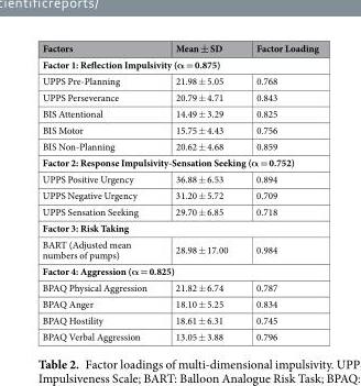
<table><thead><tr><td>Factors</td><td>Mean ± SD</td><td>Factor Loading</td></tr></thead><tbody><tr><td colspan="3">Factor 1: Reflection Impulsivity (α = 0.875)</td></tr><tr><td>UPPS Pre-Planning</td><td>21.98 ± 5.05</td><td>0.768</td></tr><tr><td>UPPS Perseverance</td><td>20.79 ± 4.71</td><td>0.843</td></tr><tr><td>BIS Attentional</td><td>14.49 ± 3.29</td><td>0.825</td></tr><tr><td>BIS Motor</td><td>15.75 ± 4.43</td><td>0.756</td></tr><tr><td>BIS Non-Planning</td><td>20.62 ± 4.68</td><td>0.859</td></tr><tr><td colspan="3">Factor 2: Response Impulsivity-Sensation Seeking (α = 0.752)</td></tr><tr><td>UPPS Positive Urgency</td><td>36.88 ± 6.53</td><td>0.894</td></tr><tr><td>UPPS Negative Urgency</td><td>31.20 ± 5.72</td><td>0.709</td></tr><tr><td>UPPS Sensation Seeking</td><td>29.70 ± 6.85</td><td>0.718</td></tr><tr><td colspan="3">Factor 3: Risk Taking</td></tr><tr><td>BART (Adjusted mean numbers of pumps)</td><td>28.98 ± 17.00</td><td>0.984</td></tr><tr><td colspan="3">Factor 4: Aggression (α = 0.825)</td></tr><tr><td>BPAQ Physical Aggression</td><td>21.82 ± 6.74</td><td>0.787</td></tr><tr><td>BPAQ Anger</td><td>18.10 ± 5.25</td><td>0.834</td></tr><tr><td>BPAQ Hostility</td><td>18.61 ± 6.31</td><td>0.745</td></tr><tr><td>BPAQ Verbal Aggression</td><td>13.05 ± 3.88</td><td>0.796</td></tr></tbody></table>